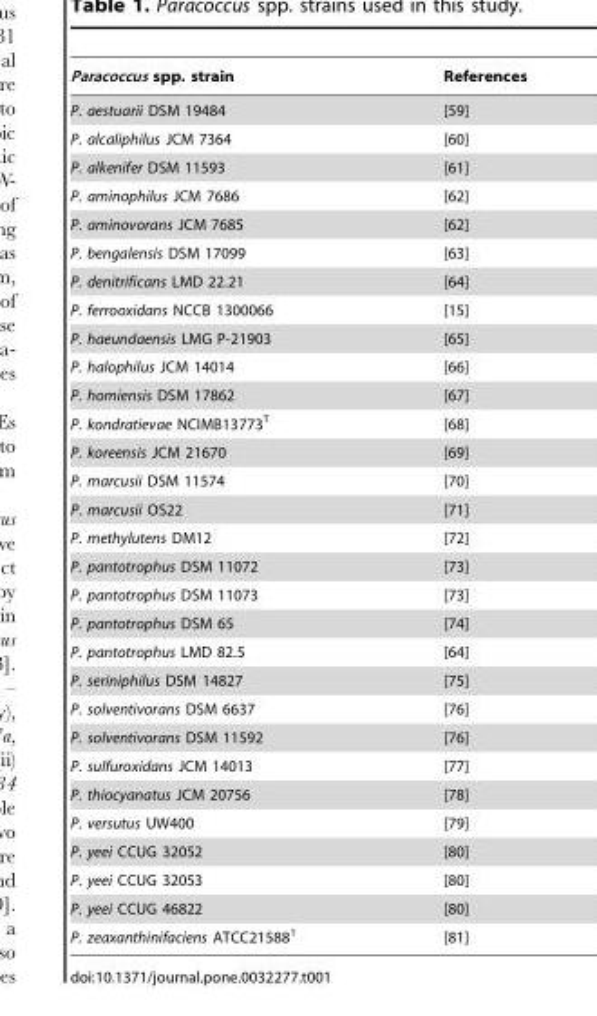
<table><thead><tr><td>Paracoccus spp. strain</td><td>References</td></tr></thead><tbody><tr><td>P. aestuarii DSM 19484</td><td>[59]</td></tr><tr><td>P. alcaliphilus JCM 7364</td><td>[60]</td></tr><tr><td>P. alkenifer DSM 11593</td><td>[61]</td></tr><tr><td>P. aminophilus JCM 7686</td><td>[62]</td></tr><tr><td>P. aminovorans JCM 7685</td><td>[62]</td></tr><tr><td>P. bengalensis DSM 17099</td><td>[63]</td></tr><tr><td>P. denitrificans LMD 22.21</td><td>[64]</td></tr><tr><td>P. ferrooxidans NCCB 1300066</td><td>[15]</td></tr><tr><td>P. haeundaensis LMG P-21903</td><td>[65]</td></tr><tr><td>P. halophilus JCM 14014</td><td>[66]</td></tr><tr><td>P. homiensis DSM 17862</td><td>[67]</td></tr><tr><td>P. kondratievae NCIMB13773<sup>T</sup></td><td>[68]</td></tr><tr><td>P. koreensis JCM 21670</td><td>[69]</td></tr><tr><td>P. marcusii DSM 11574</td><td>[70]</td></tr><tr><td>P. marcusii OS22</td><td>[71]</td></tr><tr><td>P. methylutens DM12</td><td>[72]</td></tr><tr><td>P. pantotrophus DSM 11072</td><td>[73]</td></tr><tr><td>P. pantotrophus DSM 11073</td><td>[73]</td></tr><tr><td>P. pantotrophus DSM 65</td><td>[74]</td></tr><tr><td>P. pantotrophus LMD 82.5</td><td>[64]</td></tr><tr><td>P. seriniphilus DSM 14827</td><td>[75]</td></tr><tr><td>P. solventivorans DSM 6637</td><td>[76]</td></tr><tr><td>P. solventivorans DSM 11592</td><td>[76]</td></tr><tr><td>P. sulfuroxidans JCM 14013</td><td>[77]</td></tr><tr><td>P. thiocyanatus JCM 20756</td><td>[78]</td></tr><tr><td>P. versutus UW400</td><td>[79]</td></tr><tr><td>P. yeei CCUG 32052</td><td>[80]</td></tr><tr><td>P. yeei CCUG 32053</td><td>[80]</td></tr><tr><td>P. yeei CCUG 46822</td><td>[80]</td></tr><tr><td>P. zeaxanthinifaciens ATCC21588<sup>1</sup></td><td>[81]</td></tr></tbody></table>